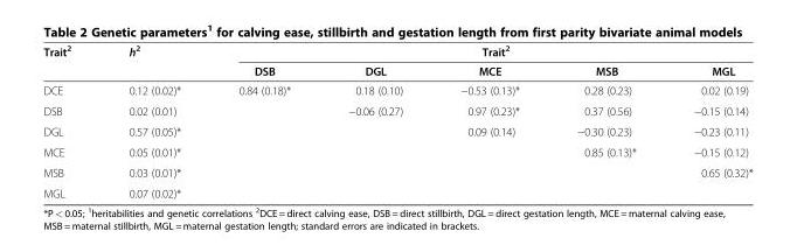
<table><thead><tr><td rowspan="2">Trait<sup>2</sup></td><td rowspan="2">h<sup>2</sup></td><td colspan="5">Trait<sup>2</sup></td></tr><tr><td>DSB</td><td>DGL</td><td>MCE</td><td>MSB</td><td>MGL</td></tr></thead><tbody><tr><td>DCE</td><td>0.12 (0.02)*</td><td>0.84 (0.18)*</td><td>0.18 (0.10)</td><td>−0.53 (0.13)*</td><td>0.28 (0.23)</td><td>0.02 (0.19)</td></tr><tr><td>DSB</td><td>0.02 (0.01)</td><td></td><td>−0.06 (0.27)</td><td>0.97 (0.23)*</td><td>0.37 (0.56)</td><td>−0.15 (0.14)</td></tr><tr><td>DGL</td><td>0.57 (0.05)*</td><td></td><td></td><td>0.09 (0.14)</td><td>−0.30 (0.23)</td><td>−0.23 (0.11)</td></tr><tr><td>MCE</td><td>0.05 (0.01)*</td><td></td><td></td><td></td><td>0.85 (0.13)*</td><td>−0.15 (0.12)</td></tr><tr><td>MSB</td><td>0.03 (0.01)*</td><td></td><td></td><td></td><td></td><td>0.65 (0.32)*</td></tr><tr><td>MGL</td><td>0.07 (0.02)*</td><td></td><td></td><td></td><td></td><td></td></tr></tbody></table>